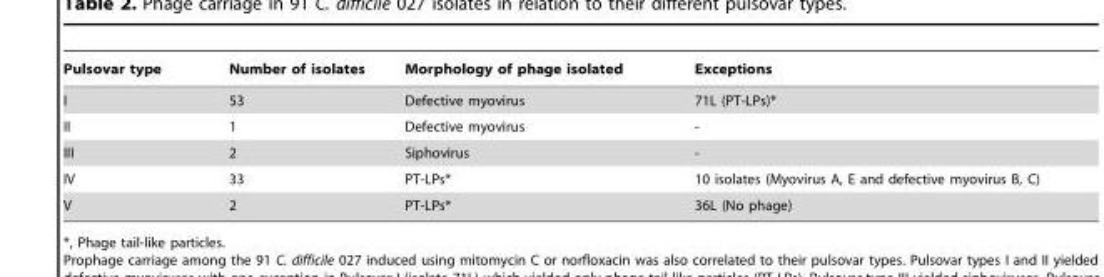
<table><thead><tr><td>Pulsovar type</td><td>Number of isolates</td><td>Morphology of phage isolated</td><td>Exceptions</td></tr></thead><tbody><tr><td>I</td><td>53</td><td>Defective myovirus</td><td>71L (PT-LPs)*</td></tr><tr><td>II</td><td>1</td><td>Defective myovirus</td><td>-</td></tr><tr><td>III</td><td>2</td><td>Siphovirus</td><td>-</td></tr><tr><td>IV</td><td>33</td><td>PT-LPs*</td><td>10 isolates (Myovirus A, E and defective myovirus B, C)</td></tr><tr><td>V</td><td>2</td><td>PT-LPs*</td><td>36L (No phage)</td></tr></tbody></table>